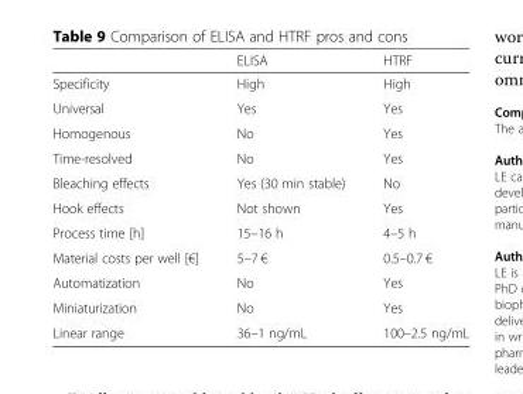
<table><thead><tr><td></td><td>ELISA</td><td>HTRF</td></tr></thead><tbody><tr><td>Specificity</td><td>High</td><td>High</td></tr><tr><td>Universal</td><td>Yes</td><td>Yes</td></tr><tr><td>Homogenous</td><td>No</td><td>Yes</td></tr><tr><td>Time-resolved</td><td>No</td><td>Yes</td></tr><tr><td>Bleaching effects</td><td>Yes (30 min stable)</td><td>No</td></tr><tr><td>Hook effects</td><td>Not shown</td><td>Yes</td></tr><tr><td>Process time [h]</td><td>15–16 h</td><td>4–5 h</td></tr><tr><td>Material costs per well [€]</td><td>5–7 €</td><td>0.5–0.7 €</td></tr><tr><td>Automatization</td><td>No</td><td>Yes</td></tr><tr><td>Miniaturization</td><td>No</td><td>Yes</td></tr><tr><td>Linear range</td><td>36–1 ng/mL</td><td>100–2.5 ng/mL</td></tr></tbody></table>